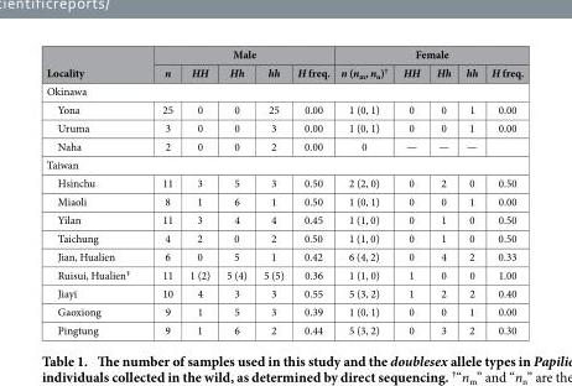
<table><thead><tr><td rowspan="2">Locality</td><td colspan="5">Male</td><td colspan="5">Female</td></tr><tr><td>n</td><td>HH</td><td>Hh</td><td>hh</td><td>H freq.</td><td>n (n<sub>m</sub>, n<sub>n</sub>)†</td><td>HH</td><td>Hh</td><td>hh</td><td>H freq.</td></tr></thead><tbody><tr><td colspan="11">Okinawa</td></tr><tr><td>Yona</td><td>25</td><td>0</td><td>0</td><td>25</td><td>0.00</td><td>1 (0, 1)</td><td>0</td><td>0</td><td>1</td><td>0.00</td></tr><tr><td>Uruma</td><td>3</td><td>0</td><td>0</td><td>3</td><td>0.00</td><td>1 (0, 1)</td><td>0</td><td>0</td><td>1</td><td>0.00</td></tr><tr><td>Naha</td><td>2</td><td>0</td><td>0</td><td>2</td><td>0.00</td><td>0</td><td>—</td><td>—</td><td>—</td><td></td></tr><tr><td colspan="11">Taiwan</td></tr><tr><td>Hsinchu</td><td>11</td><td>3</td><td>5</td><td>3</td><td>0.50</td><td>2 (2, 0)</td><td>0</td><td>2</td><td>0</td><td>0.50</td></tr><tr><td>Miaoli</td><td>8</td><td>1</td><td>6</td><td>1</td><td>0.50</td><td>1 (0, 1)</td><td>0</td><td>0</td><td>1</td><td>0.00</td></tr><tr><td>Yilan</td><td>11</td><td>3</td><td>4</td><td>4</td><td>0.45</td><td>1 (1, 0)</td><td>0</td><td>1</td><td>0</td><td>0.50</td></tr><tr><td>Taichung</td><td>4</td><td>2</td><td>0</td><td>2</td><td>0.50</td><td>1 (1, 0)</td><td>0</td><td>1</td><td>0</td><td>0.50</td></tr><tr><td>Jian, Hualien</td><td>6</td><td>0</td><td>5</td><td>1</td><td>0.42</td><td>6 (4, 2)</td><td>0</td><td>4</td><td>2</td><td>0.33</td></tr><tr><td>Ruisui, Hualien‡</td><td>11</td><td>1 (2)</td><td>5 (4)</td><td>5 (5)</td><td>0.36</td><td>1 (1, 0)</td><td>1</td><td>0</td><td>0</td><td>1.00</td></tr><tr><td>Jiayi</td><td>10</td><td>4</td><td>3</td><td>3</td><td>0.55</td><td>5 (3, 2)</td><td>1</td><td>2</td><td>2</td><td>0.40</td></tr><tr><td>Gaoxiong</td><td>9</td><td>1</td><td>5</td><td>3</td><td>0.39</td><td>1 (0, 1)</td><td>0</td><td>0</td><td>1</td><td>0.00</td></tr><tr><td>Pingtung</td><td>9</td><td>1</td><td>6</td><td>2</td><td>0.44</td><td>5 (3, 2)</td><td>0</td><td>3</td><td>2</td><td>0.30</td></tr></tbody></table>